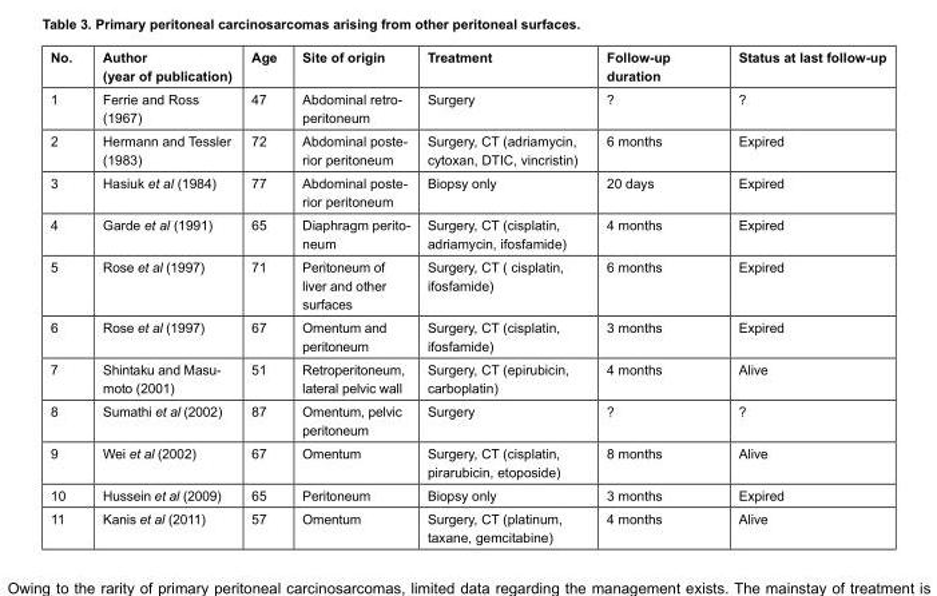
<table><thead><tr><td>No.</td><td>Author (year of publication)</td><td>Age</td><td>Site of origin</td><td>Treatment</td><td>Follow-up duration</td><td>Status at last follow-up</td></tr></thead><tbody><tr><td>1</td><td>Ferrie and Ross (1967)</td><td>47</td><td>Abdominal retro- peritoneum</td><td>Surgery</td><td>?</td><td>?</td></tr><tr><td>2</td><td>Hermann and Tessler (1983)</td><td>72</td><td>Abdominal poste- rior peritoneum</td><td>Surgery, CT (adriamycin, cytoxan, DTIC, vincristin)</td><td>6 months</td><td>Expired</td></tr><tr><td>3</td><td>Hasiuk et al (1984)</td><td>77</td><td>Abdominal poste- rior peritoneum</td><td>Biopsy only</td><td>20 days</td><td>Expired</td></tr><tr><td>4</td><td>Garde et al (1991)</td><td>65</td><td>Diaphragm perito- neum</td><td>Surgery, CT (cisplatin, adriamycin, ifosfamide)</td><td>4 months</td><td>Expired</td></tr><tr><td>5</td><td>Rose et al (1997)</td><td>71</td><td>Peritoneum of liver and other surfaces</td><td>Surgery, CT ( cisplatin, ifosfamide)</td><td>6 months</td><td>Expired</td></tr><tr><td>6</td><td>Rose et al (1997)</td><td>67</td><td>Omentum and peritoneum</td><td>Surgery, CT (cisplatin, ifosfamide)</td><td>3 months</td><td>Expired</td></tr><tr><td>7</td><td>Shintaku and Masu- moto (2001)</td><td>51</td><td>Retroperitoneum, lateral pelvic wall</td><td>Surgery, CT (epirubicin, carboplatin)</td><td>4 months</td><td>Alive</td></tr><tr><td>8</td><td>Sumathi et al (2002)</td><td>87</td><td>Omentum, pelvic peritoneum</td><td>Surgery</td><td>?</td><td>?</td></tr><tr><td>9</td><td>Wei et al (2002)</td><td>67</td><td>Omentum</td><td>Surgery, CT (cisplatin, pirarubicin, etoposide)</td><td>8 months</td><td>Alive</td></tr><tr><td>10</td><td>Hussein et al (2009)</td><td>65</td><td>Peritoneum</td><td>Biopsy only</td><td>3 months</td><td>Expired</td></tr><tr><td>11</td><td>Kanis et al (2011)</td><td>57</td><td>Omentum</td><td>Surgery, CT (platinum, taxane, gemcitabine)</td><td>4 months</td><td>Alive</td></tr></tbody></table>